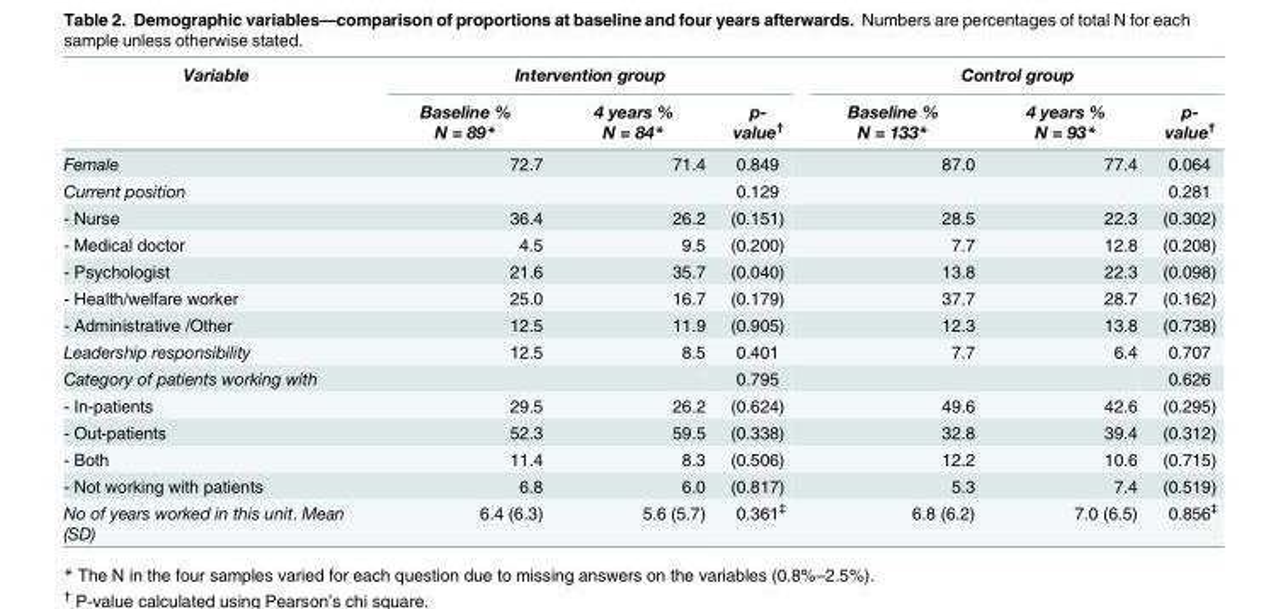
<table><thead><tr><td rowspan="2">Variable</td><td colspan="3">Intervention group</td><td colspan="3">Control group</td></tr><tr><td>Baseline % N = 89*</td><td>4 years % N = 84*</td><td>p- value<sup>†</sup></td><td>Baseline % N = 133*</td><td>4 years % N = 93*</td><td>p- value<sup>†</sup></td></tr></thead><tbody><tr><td>Female</td><td>72.7</td><td>71.4</td><td>0.849</td><td>87.0</td><td>77.4</td><td>0.064</td></tr><tr><td>Current position</td><td></td><td></td><td>0.129</td><td></td><td></td><td>0.281</td></tr><tr><td>- Nurse</td><td>36.4</td><td>26.2</td><td>(0.151)</td><td>28.5</td><td>22.3</td><td>(0.302)</td></tr><tr><td>- Medical doctor</td><td>4.5</td><td>9.5</td><td>(0.200)</td><td>7.7</td><td>12.8</td><td>(0.208)</td></tr><tr><td>- Psychologist</td><td>21.6</td><td>35.7</td><td>(0.040)</td><td>13.8</td><td>22.3</td><td>(0.098)</td></tr><tr><td>- Health/welfare worker</td><td>25.0</td><td>16.7</td><td>(0.179)</td><td>37.7</td><td>28.7</td><td>(0.162)</td></tr><tr><td>- Administrative /Other</td><td>12.5</td><td>11.9</td><td>(0.905)</td><td>12.3</td><td>13.8</td><td>(0.738)</td></tr><tr><td>Leadership responsibility</td><td>12.5</td><td>8.5</td><td>0.401</td><td>7.7</td><td>6.4</td><td>0.707</td></tr><tr><td>Category of patients working with</td><td></td><td></td><td>0.795</td><td></td><td></td><td>0.626</td></tr><tr><td>- In-patients</td><td>29.5</td><td>26.2</td><td>(0.624)</td><td>49.6</td><td>42.6</td><td>(0.295)</td></tr><tr><td>- Out-patients</td><td>52.3</td><td>59.5</td><td>(0.338)</td><td>32.8</td><td>39.4</td><td>(0.312)</td></tr><tr><td>- Both</td><td>11.4</td><td>8.3</td><td>(0.506)</td><td>12.2</td><td>10.6</td><td>(0.715)</td></tr><tr><td>- Not working with patients</td><td>6.8</td><td>6.0</td><td>(0.817)</td><td>5.3</td><td>7.4</td><td>(0.519)</td></tr><tr><td>No of years worked in this unit. Mean (SD)</td><td>6.4 (6.3)</td><td>5.6 (5.7)</td><td>0.361<sup>‡</sup></td><td>6.8 (6.2)</td><td>7.0 (6.5)</td><td>0.856<sup>‡</sup></td></tr></tbody></table>